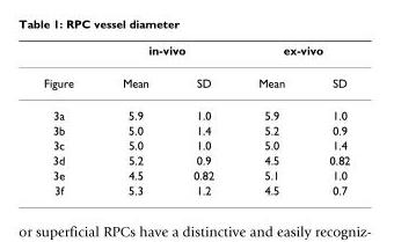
<table><thead><tr><td rowspan="2">Figure</td><td colspan="2">in-vivo</td><td colspan="2">ex-vivo</td></tr><tr><td>Mean</td><td>SD</td><td>Mean</td><td>SD</td></tr></thead><tbody><tr><td>3a</td><td>5.9</td><td>1.0</td><td>5.9</td><td>1.0</td></tr><tr><td>3b</td><td>5.0</td><td>1.4</td><td>5.2</td><td>0.9</td></tr><tr><td>3c</td><td>5.0</td><td>1.0</td><td>5.0</td><td>1.4</td></tr><tr><td>3d</td><td>5.2</td><td>0.9</td><td>4.5</td><td>0.82</td></tr><tr><td>3e</td><td>4.5</td><td>0.82</td><td>5.1</td><td>1.0</td></tr><tr><td>3f</td><td>5.3</td><td>1.2</td><td>4.5</td><td>0.7</td></tr></tbody></table>